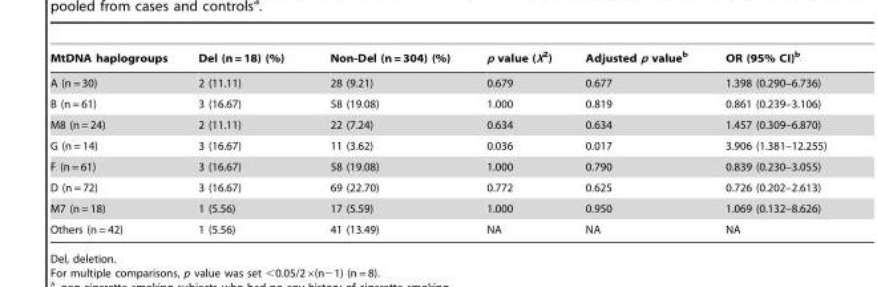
<table><thead><tr><td>MtDNA haplogroups</td><td>Del (n = 18) (%)</td><td>Non-Del (n = 304) (%)</td><td>p value (X<sup>2</sup>)</td><td>Adjusted p value<sup>b</sup></td><td>OR (95% CI)<sup>b</sup></td></tr></thead><tbody><tr><td>A (n = 30)</td><td>2 (11.11)</td><td>28 (9.21)</td><td>0.679</td><td>0.677</td><td>1.398 (0.290–6.736)</td></tr><tr><td>B (n = 61)</td><td>3 (16.67)</td><td>58 (19.08)</td><td>1.000</td><td>0.819</td><td>0.861 (0.239–3.106)</td></tr><tr><td>M8 (n = 24)</td><td>2 (11.11)</td><td>22 (7.24)</td><td>0.634</td><td>0.634</td><td>1.457 (0.309–6.870)</td></tr><tr><td>G (n = 14)</td><td>3 (16.67)</td><td>11 (3.62)</td><td>0.036</td><td>0.017</td><td>3.906 (1.381–12.255)</td></tr><tr><td>F (n = 61)</td><td>3 (16.67)</td><td>58 (19.08)</td><td>1.000</td><td>0.790</td><td>0.839 (0.230–3.055)</td></tr><tr><td>D (n = 72)</td><td>3 (16.67)</td><td>69 (22.70)</td><td>0.772</td><td>0.625</td><td>0.726 (0.202–2.613)</td></tr><tr><td>M7 (n = 18)</td><td>1 (5.56)</td><td>17 (5.59)</td><td>1.000</td><td>0.950</td><td>1.069 (0.132–8.626)</td></tr><tr><td>Others (n = 42)</td><td>1 (5.56)</td><td>41 (13.49)</td><td>NA</td><td>NA</td><td>NA</td></tr></tbody></table>